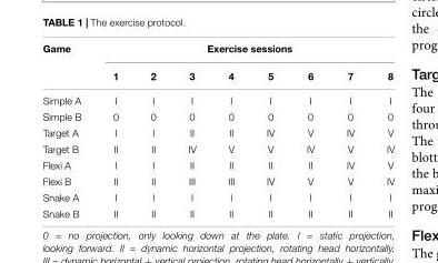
<table><thead><tr><td rowspan="2">Game</td><td colspan="8">Exercise sessions</td></tr><tr><td>1</td><td>2</td><td>3</td><td>4</td><td>5</td><td>6</td><td>7</td><td>8</td></tr></thead><tbody><tr><td>Simple A</td><td>I</td><td>I</td><td>I</td><td>I</td><td>I</td><td>I</td><td>I</td><td>I</td></tr><tr><td>Simple B</td><td>0</td><td>0</td><td>0</td><td>0</td><td>0</td><td>0</td><td>0</td><td>0</td></tr><tr><td>Target A</td><td>I</td><td>I</td><td>II</td><td>II</td><td>IV</td><td>V</td><td>IV</td><td>V</td></tr><tr><td>Target B</td><td>II</td><td>II</td><td>IV</td><td>V</td><td>V</td><td>IV</td><td>V</td><td>IV</td></tr><tr><td>Flexi A</td><td>I</td><td>I</td><td>II</td><td>II</td><td>II</td><td>II</td><td>IV</td><td>V</td></tr><tr><td>Flexi B</td><td>II</td><td>II</td><td>III</td><td>III</td><td>IV</td><td>V</td><td>V</td><td>IV</td></tr><tr><td>Snake A</td><td>I</td><td>I</td><td>I</td><td>I</td><td>I</td><td>I</td><td>I</td><td>I</td></tr><tr><td>Snake B</td><td>II</td><td>II</td><td>II</td><td>II</td><td>II</td><td>II</td><td>II</td><td>II</td></tr></tbody></table>